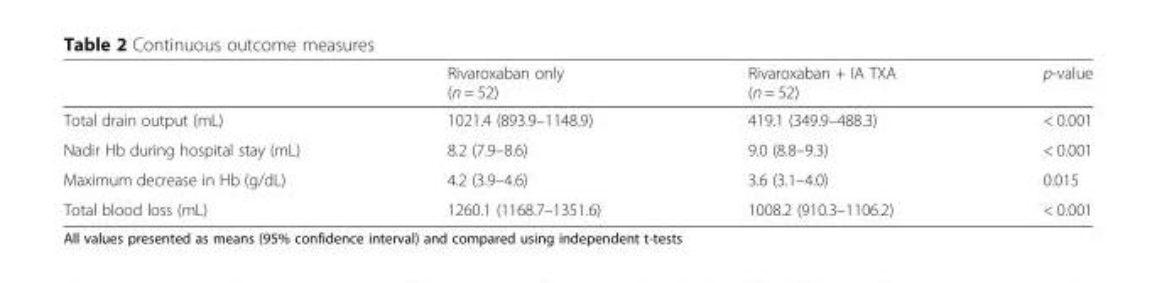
<table><thead><tr><td></td><td>Rivaroxaban only (n = 52)</td><td>Rivaroxaban + IA TXA (n = 52)</td><td>p-value</td></tr></thead><tbody><tr><td>Total drain output (mL)</td><td>1021.4 (893.9–1148.9)</td><td>419.1 (349.9–488.3)</td><td>&lt; 0.001</td></tr><tr><td>Nadir Hb during hospital stay (mL)</td><td>8.2 (7.9–8.6)</td><td>9.0 (8.8–9.3)</td><td>&lt; 0.001</td></tr><tr><td>Maximum decrease in Hb (g/dL)</td><td>4.2 (3.9–4.6)</td><td>3.6 (3.1–4.0)</td><td>0.015</td></tr><tr><td>Total blood loss (mL)</td><td>1260.1 (1168.7–1351.6)</td><td>1008.2 (910.3–1106.2)</td><td>&lt; 0.001</td></tr></tbody></table>